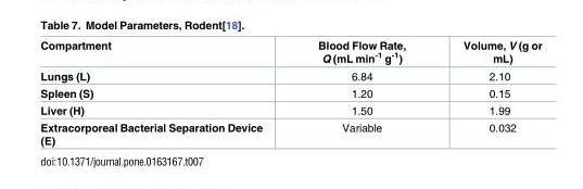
<table><thead><tr><td>Compartment</td><td>Blood Flow Rate, Q (mL min<sup>-1</sup> g<sup>-1</sup>)</td><td>Volume, V (g or mL)</td></tr></thead><tbody><tr><td>Lungs (L)</td><td>6.84</td><td>2.10</td></tr><tr><td>Spleen (S)</td><td>1.20</td><td>0.15</td></tr><tr><td>Liver (H)</td><td>1.50</td><td>1.99</td></tr><tr><td>Extracorporeal Bacterial Separation Device (E)</td><td>Variable</td><td>0.032</td></tr></tbody></table>